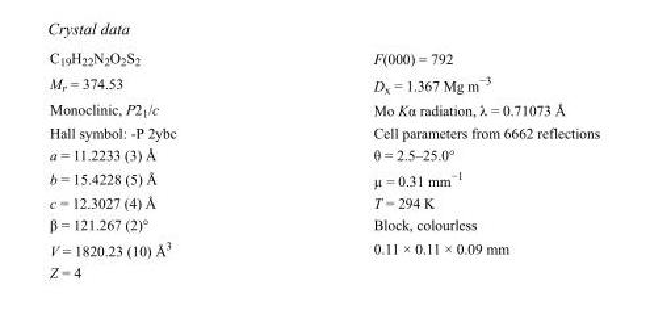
<table><tbody><tr><td>C<sub>19</sub>H<sub>22</sub>N<sub>2</sub>O<sub>2</sub>S<sub>2</sub></td><td>F(000) = 792</td></tr><tr><td>M<sub>r</sub> = 374.53</td><td>D<sub>x</sub> = 1.367 Mg m<sup>−3</sup></td></tr><tr><td>Monoclinic, P2<sub>1</sub>/c</td><td>Mo Kα radiation, λ = 0.71073 Å</td></tr><tr><td>Hall symbol: -P 2ybc</td><td>Cell parameters from 6662 reflections</td></tr><tr><td>a = 11.2233 (3) Å</td><td>θ = 2.5–25.0°</td></tr><tr><td>b = 15.4228 (5) Å</td><td>µ = 0.31 mm<sup>−1</sup></td></tr><tr><td>c = 12.3027 (4) Å</td><td>T = 294 K</td></tr><tr><td>β = 121.267 (2)°</td><td>Block, colourless</td></tr><tr><td>V = 1820.23 (10) Å<sup>3</sup></td><td>0.11 × 0.11 × 0.09 mm</td></tr><tr><td>Z = 4</td><td></td></tr></tbody></table>